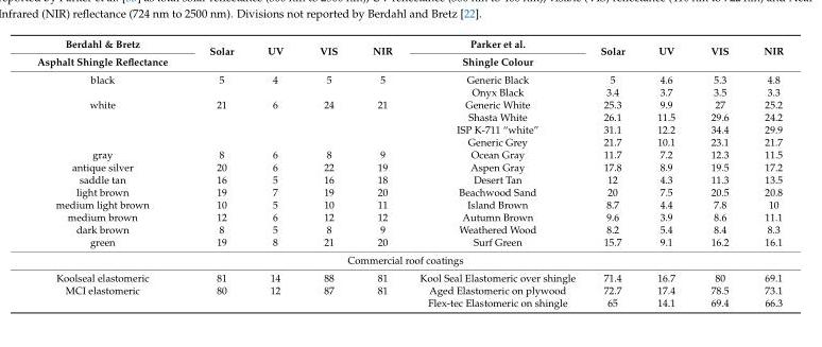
<table><thead><tr><td rowspan="2">Berdahl &amp; Bretz Asphalt Shingle Reflectance</td><td rowspan="2">Solar</td><td rowspan="2">UV</td><td rowspan="2">VIS</td><td rowspan="2">NIR</td><td rowspan="2">Parker et al. Shingle Colour</td><td rowspan="2">Solar</td><td rowspan="2">UV</td><td rowspan="2">VIS</td><td rowspan="2">NIR</td></tr><tr></tr></thead><tbody><tr><td rowspan="2">black</td><td>5</td><td>4</td><td>5</td><td>5</td><td>Generic Black</td><td>5</td><td>4.6</td><td>5.3</td><td>4.8</td></tr><tr><td></td><td></td><td></td><td></td><td>Onyx Black</td><td>3.4</td><td>3.7</td><td>3.5</td><td>3.3</td></tr><tr><td rowspan="4">white</td><td>21</td><td>6</td><td>24</td><td>21</td><td>Generic White</td><td>25.3</td><td>9.9</td><td>27</td><td>25.2</td></tr><tr><td></td><td></td><td></td><td></td><td>Shasta White</td><td>26.1</td><td>11.5</td><td>29.6</td><td>24.2</td></tr><tr><td></td><td></td><td></td><td></td><td>ISP K-711 “white”</td><td>31.1</td><td>12.2</td><td>34.4</td><td>29.9</td></tr><tr><td></td><td></td><td></td><td></td><td>Generic Grey</td><td>21.7</td><td>10.1</td><td>23.1</td><td>21.7</td></tr><tr><td>gray</td><td>8</td><td>6</td><td>8</td><td>9</td><td>Ocean Gray</td><td>11.7</td><td>7.2</td><td>12.3</td><td>11.5</td></tr><tr><td>antique silver</td><td>20</td><td>6</td><td>22</td><td>19</td><td>Aspen Gray</td><td>17.8</td><td>8.9</td><td>19.5</td><td>17.2</td></tr><tr><td>saddle tan</td><td>16</td><td>5</td><td>16</td><td>18</td><td>Desert Tan</td><td>12</td><td>4.3</td><td>11.3</td><td>13.5</td></tr><tr><td>light brown</td><td>19</td><td>7</td><td>19</td><td>20</td><td>Beachwood Sand</td><td>20</td><td>7.5</td><td>20.5</td><td>20.8</td></tr><tr><td>medium light brown</td><td>10</td><td>5</td><td>10</td><td>11</td><td>Island Brown</td><td>8.7</td><td>4.4</td><td>7.8</td><td>10</td></tr><tr><td>medium brown</td><td>12</td><td>6</td><td>12</td><td>12</td><td>Autumn Brown</td><td>9.6</td><td>3.9</td><td>8.6</td><td>11.1</td></tr><tr><td>dark brown</td><td>8</td><td>5</td><td>8</td><td>9</td><td>Weathered Wood</td><td>8.2</td><td>5.4</td><td>8.4</td><td>8.3</td></tr><tr><td>green</td><td>19</td><td>8</td><td>21</td><td>20</td><td>Surf Green</td><td>15.7</td><td>9.1</td><td>16.2</td><td>16.1</td></tr><tr><td colspan="10">Commercial roof coatings</td></tr><tr><td>Koolseal elastomeric</td><td>81</td><td>14</td><td>88</td><td>81</td><td>Kool Seal Elastomeric over shingle</td><td>71.4</td><td>16.7</td><td>80</td><td>69.1</td></tr><tr><td rowspan="2">MCI elastomeric</td><td>80</td><td>12</td><td>87</td><td>81</td><td>Aged Elastomeric on plywood</td><td>72.7</td><td>17.4</td><td>78.5</td><td>73.1</td></tr><tr><td></td><td></td><td></td><td></td><td>Flex-tec Elastomeric on shingle</td><td>65</td><td>14.1</td><td>69.4</td><td>66.3</td></tr></tbody></table>